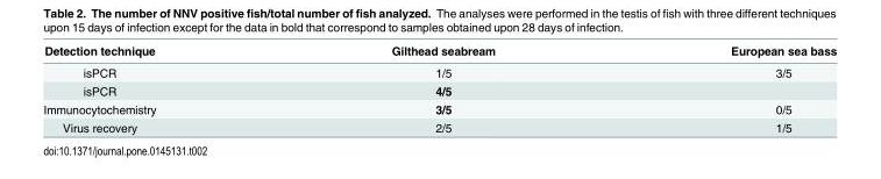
<table><thead><tr><td>Detection technique</td><td>Gilthead seabream</td><td>European sea bass</td></tr></thead><tbody><tr><td>isPCR</td><td>1/5</td><td>3/5</td></tr><tr><td>isPCR</td><td>4/5</td><td></td></tr><tr><td>Immunocytochemistry</td><td>3/5</td><td>0/5</td></tr><tr><td>Virus recovery</td><td>2/5</td><td>1/5</td></tr></tbody></table>